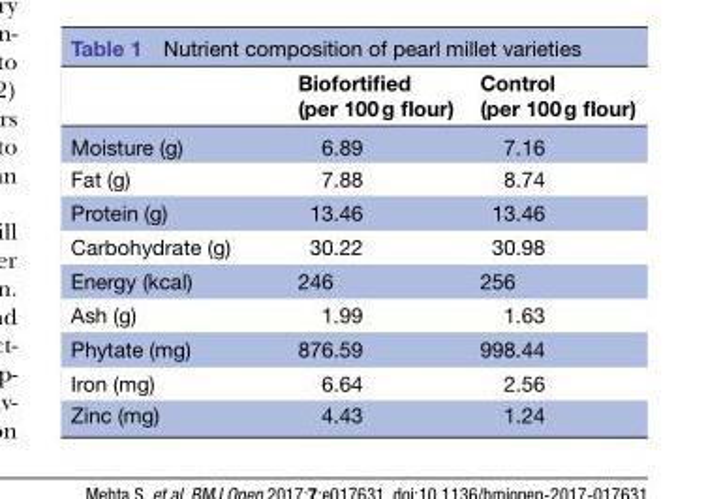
<table><thead><tr><td></td><td>Biofortified (per 100 g flour)</td><td>Control (per 100 g flour)</td></tr></thead><tbody><tr><td>Moisture (g)</td><td>6.89</td><td>7.16</td></tr><tr><td>Fat (g)</td><td>7.88</td><td>8.74</td></tr><tr><td>Protein (g)</td><td>13.46</td><td>13.46</td></tr><tr><td>Carbohydrate (g)</td><td>30.22</td><td>30.98</td></tr><tr><td>Energy (kcal)</td><td>246</td><td>256</td></tr><tr><td>Ash (g)</td><td>1.99</td><td>1.63</td></tr><tr><td>Phytate (mg)</td><td>876.59</td><td>998.44</td></tr><tr><td>Iron (mg)</td><td>6.64</td><td>2.56</td></tr><tr><td>Zinc (mg)</td><td>4.43</td><td>1.24</td></tr></tbody></table>